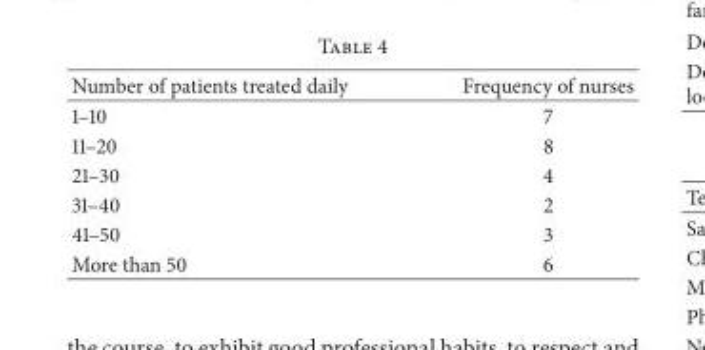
<table><thead><tr><td>Number of patients treated daily</td><td>Frequency of nurses</td></tr></thead><tbody><tr><td>1–10</td><td>7</td></tr><tr><td>11–20</td><td>8</td></tr><tr><td>21–30</td><td>4</td></tr><tr><td>31–40</td><td>2</td></tr><tr><td>41–50</td><td>3</td></tr><tr><td>More than 50</td><td>6</td></tr></tbody></table>